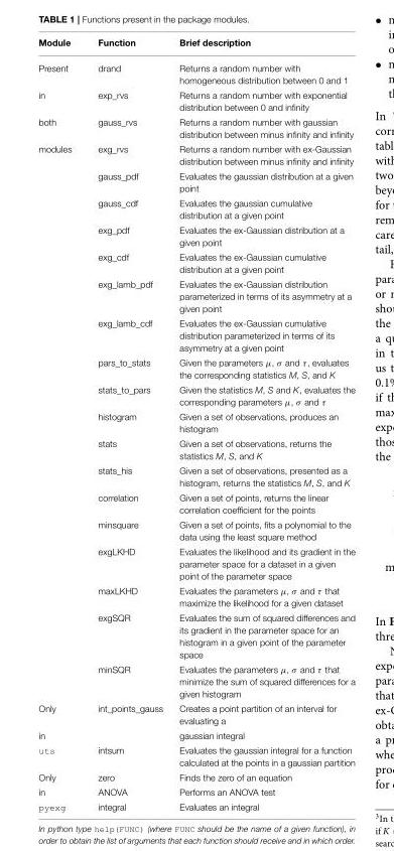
<table><thead><tr><td>Module</td><td>Function</td><td>Brief description</td></tr></thead><tbody><tr><td>Present</td><td>drand</td><td>Returns a random number with homogeneous distribution between 0 and 1</td></tr><tr><td>in</td><td>exp_rvs</td><td>Returns a random number with exponential distribution between 0 and infinity</td></tr><tr><td>both</td><td>gauss_rvs</td><td>Returns a random number with gaussian distribution between minus infinity and infinity</td></tr><tr><td rowspan="18">modules</td><td>exg_rvs</td><td>Returns a random number with ex-Gaussian distribution between minus infinity and infinity</td></tr><tr><td>gauss_pdf</td><td>Evaluates the gaussian distribution at a given point</td></tr><tr><td>gauss_cdf</td><td>Evaluates the gaussian cumulative distribution at a given point</td></tr><tr><td>exg_pdf</td><td>Evaluates the ex-Gaussian distribution at a given point</td></tr><tr><td>exg_cdf</td><td>Evaluates the ex-Gaussian cumulative distribution at a given point</td></tr><tr><td>exg_lamb_pdf</td><td>Evaluates the ex-Gaussian distribution parameterized in terms of its asymmetry at a given point</td></tr><tr><td>exg_lamb_cdf</td><td>Evaluates the ex-Gaussian cumulative distribution parameterized in terms of its asymmetry at a given point</td></tr><tr><td>pars_to_stats</td><td>Given the parameters µ, σ and τ, evaluates the corresponding statistics M, S, and K</td></tr><tr><td>stats_to_pars</td><td>Given the statistics M, S and K, evaluates the corresponding parameters µ, σ and τ</td></tr><tr><td>histogram</td><td>Given a set of observations, produces an histogram</td></tr><tr><td>stats</td><td>Given a set of observations, returns the statistics M, S, and K</td></tr><tr><td>stats_his</td><td>Given a set of observations, presented as a histogram, returns the statistics M, S, and K</td></tr><tr><td>correlation</td><td>Given a set of points, returns the linear correlation coefficient for the points</td></tr><tr><td>minsquare</td><td>Given a set of points, fits a polynomial to the data using the least square method</td></tr><tr><td>exgLKHD</td><td>Evaluates the likelihood and its gradient in the parameter space for a dataset in a given point of the parameter space</td></tr><tr><td>maxLKHD</td><td>Evaluates the parameters µ, σ and τ that maximize the likelihood for a given dataset</td></tr><tr><td>exgSQR</td><td>Evaluates the sum of squared differences and its gradient in the parameter space for an histogram in a given point of the parameter space</td></tr><tr><td>minSQR</td><td>Evaluates the parameters µ, σ and τ that minimize the sum of squared differences for a given histogram</td></tr><tr><td>Only</td><td>int_points_gauss</td><td>Creates a point partition of an interval for evaluating a</td></tr><tr><td>in</td><td></td><td>gaussian integral</td></tr><tr><td>uts</td><td>intsum</td><td>Evaluates the gaussian integral for a function calculated at the points in a gaussian partition</td></tr><tr><td>Only</td><td>zero</td><td>Finds the zero of an equation</td></tr><tr><td>in</td><td>ANOVA</td><td>Performs an ANOVA test</td></tr><tr><td>pyexg</td><td>integral</td><td>Evaluates an integral</td></tr></tbody></table>